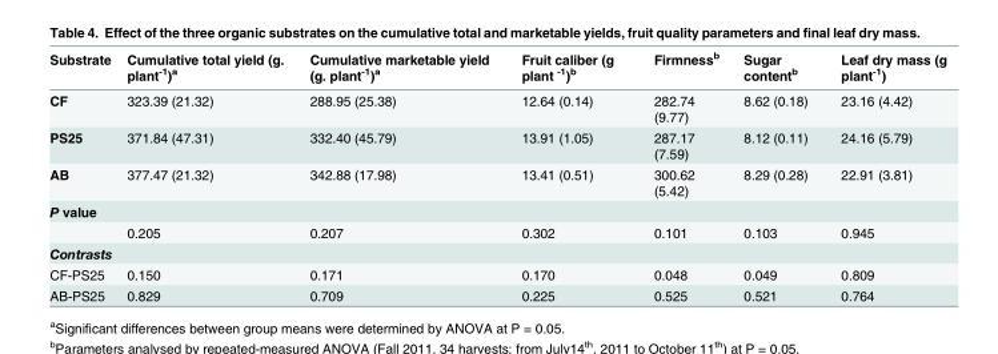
<table><thead><tr><td>Substrate</td><td>Cumulative total yield (g. plant<sup>-1</sup>)<sup>a</sup></td><td>Cumulative marketable yield (g. plant<sup>-1</sup>)<sup>a</sup></td><td>Fruit caliber (g plant <sup>-1</sup>)<sup>b</sup></td><td>Firmness<sup>b</sup></td><td>Sugar content<sup>b</sup></td><td>Leaf dry mass (g plant<sup>-1</sup>)</td></tr></thead><tbody><tr><td>CF</td><td>323.39 (21.32)</td><td>288.95 (25.38)</td><td>12.64 (0.14)</td><td>282.74 (9.77)</td><td>8.62 (0.18)</td><td>23.16 (4.42)</td></tr><tr><td>PS25</td><td>371.84 (47.31)</td><td>332.40 (45.79)</td><td>13.91 (1.05)</td><td>287.17 (7.59)</td><td>8.12 (0.11)</td><td>24.16 (5.79)</td></tr><tr><td>AB</td><td>377.47 (21.32)</td><td>342.88 (17.98)</td><td>13.41 (0.51)</td><td>300.62 (5.42)</td><td>8.29 (0.28)</td><td>22.91 (3.81)</td></tr><tr><td colspan="7">P value</td></tr><tr><td></td><td>0.205</td><td>0.207</td><td>0.302</td><td>0.101</td><td>0.103</td><td>0.945</td></tr><tr><td colspan="7">Contrasts</td></tr><tr><td>CF-PS25</td><td>0.150</td><td>0.171</td><td>0.170</td><td>0.048</td><td>0.049</td><td>0.809</td></tr><tr><td>AB-PS25</td><td>0.829</td><td>0.709</td><td>0.225</td><td>0.525</td><td>0.521</td><td>0.764</td></tr></tbody></table>